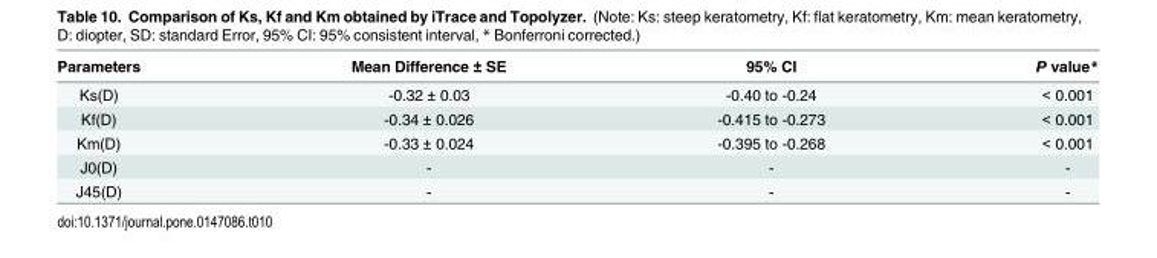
<table><thead><tr><td>Parameters</td><td>Mean Difference ± SE</td><td>95% CI</td><td>P value*</td></tr></thead><tbody><tr><td>Ks(D)</td><td>-0.32 ± 0.03</td><td>-0.40 to -0.24</td><td>&lt; 0.001</td></tr><tr><td>Kf(D)</td><td>-0.34 ± 0.026</td><td>-0.415 to -0.273</td><td>&lt; 0.001</td></tr><tr><td>Km(D)</td><td>-0.33 ± 0.024</td><td>-0.395 to -0.268</td><td>&lt; 0.001</td></tr><tr><td>J0(D)</td><td>-</td><td>-</td><td>-</td></tr><tr><td>J45(D)</td><td>-</td><td>-</td><td>-</td></tr></tbody></table>